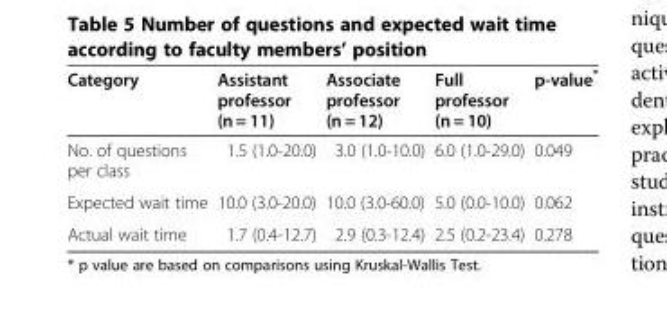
<table><thead><tr><td>Category</td><td>Assistant professor (n = 11)</td><td>Associate professor (n = 12)</td><td>Full professor (n = 10)</td><td>p-value*</td></tr></thead><tbody><tr><td>No. of questions per class</td><td>1.5 (1.0-20.0)</td><td>3.0 (1.0-10.0)</td><td>6.0 (1.0-29.0)</td><td>0.049</td></tr><tr><td>Expected wait time</td><td>10.0 (3.0-20.0)</td><td>10.0 (3.0-60.0)</td><td>5.0 (0.0-10.0)</td><td>0.062</td></tr><tr><td>Actual wait time</td><td>1.7 (0.4-12.7)</td><td>2.9 (0.3-12.4)</td><td>2.5 (0.2-23.4)</td><td>0.278</td></tr></tbody></table>